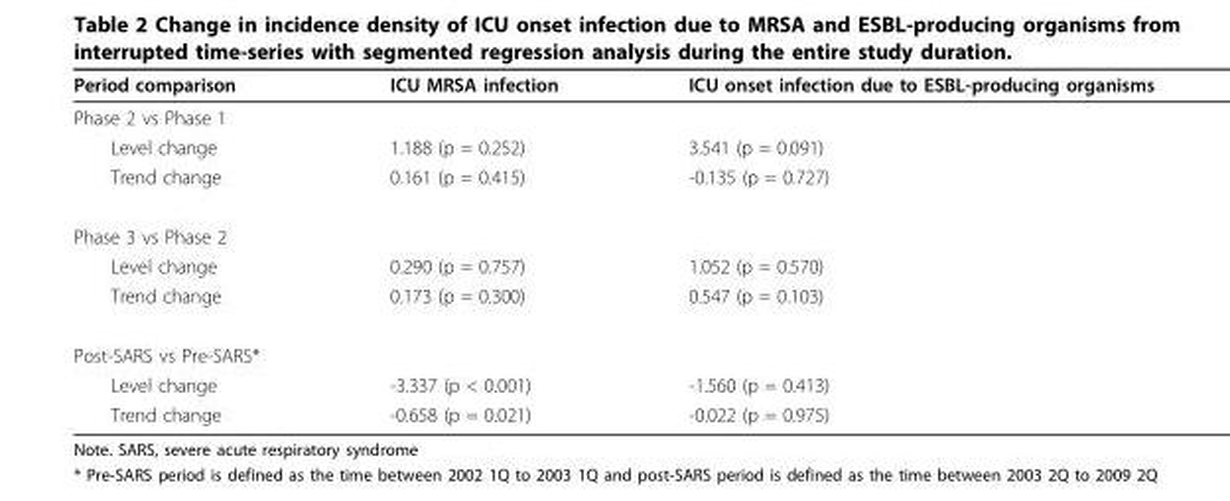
<table><thead><tr><td>Period comparison</td><td>ICU MRSA infection</td><td>ICU onset infection due to ESBL-producing organisms</td></tr></thead><tbody><tr><td colspan="3">Phase 2 vs Phase 1</td></tr><tr><td>Level change</td><td>1.188 (p = 0.252)</td><td>3.541 (p = 0.091)</td></tr><tr><td>Trend change</td><td>0.161 (p = 0.415)</td><td>-0.135 (p = 0.727)</td></tr><tr><td colspan="3">Phase 3 vs Phase 2</td></tr><tr><td>Level change</td><td>0.290 (p = 0.757)</td><td>1.052 (p = 0.570)</td></tr><tr><td>Trend change</td><td>0.173 (p = 0.300)</td><td>0.547 (p = 0.103)</td></tr><tr><td colspan="3">Post-SARS vs Pre-SARS*</td></tr><tr><td>Level change</td><td>-3.337 (p &lt; 0.001)</td><td>-1.560 (p = 0.413)</td></tr><tr><td>Trend change</td><td>-0.658 (p = 0.021)</td><td>-0.022 (p = 0.975)</td></tr></tbody></table>